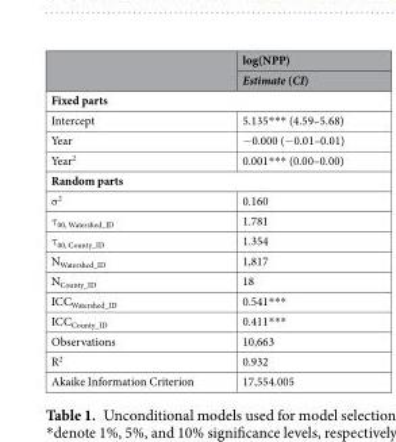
<table><thead><tr><td rowspan="2"></td><td rowspan="2">log(NPP) Estimate (CI)</td></tr><tr></tr></thead><tbody><tr><td colspan="2">Fixed parts</td></tr><tr><td>Intercept</td><td>5.135*** (4.59–5.68)</td></tr><tr><td>Year</td><td>−0.000 (−0.01–0.01)</td></tr><tr><td>Year<sup>2</sup></td><td>0.001*** (0.00–0.00)</td></tr><tr><td colspan="2">Random parts</td></tr><tr><td>σ<sup>2</sup></td><td>0.160</td></tr><tr><td>τ<sub>00, Watershed_ID</sub></td><td>1.781</td></tr><tr><td>τ<sub>00, County_ID</sub></td><td>1.354</td></tr><tr><td>N<sub>Watershed_ID</sub></td><td>1,817</td></tr><tr><td>N<sub>County_ID</sub></td><td>18</td></tr><tr><td>ICC<sub>Watershed_ID</sub></td><td>0.541***</td></tr><tr><td>ICC<sub>County_ID</sub></td><td>0.411***</td></tr><tr><td>Observations</td><td>10,663</td></tr><tr><td>R<sup>2</sup></td><td>0.932</td></tr><tr><td>Akaike Information Criterion</td><td>17,554.005</td></tr></tbody></table>